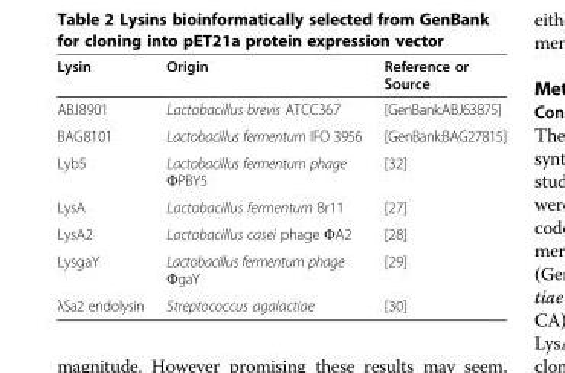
<table><thead><tr><td>Lysin</td><td>Origin</td><td>Reference or Source</td></tr></thead><tbody><tr><td>ABJ8901</td><td>Lactobacillus brevis ATCC367</td><td>[GenBank:ABJ63875]</td></tr><tr><td>BAG8101</td><td>Lactobacillus fermentum IFO 3956</td><td>[GenBank:BAG27815]</td></tr><tr><td>Lyb5</td><td>Lactobacillus fermentum phage ΦPBY5</td><td>[32]</td></tr><tr><td>LysA</td><td>Lactobacillus fermentum Br11</td><td>[27]</td></tr><tr><td>LysA2</td><td>Lactobacillus casei phage ΦA2</td><td>[28]</td></tr><tr><td>LysgaY</td><td>Lactobacillus fermentum phage ΦgaY</td><td>[29]</td></tr><tr><td>λSa2 endolysin</td><td>Streptococcus agalactiae</td><td>[30]</td></tr></tbody></table>